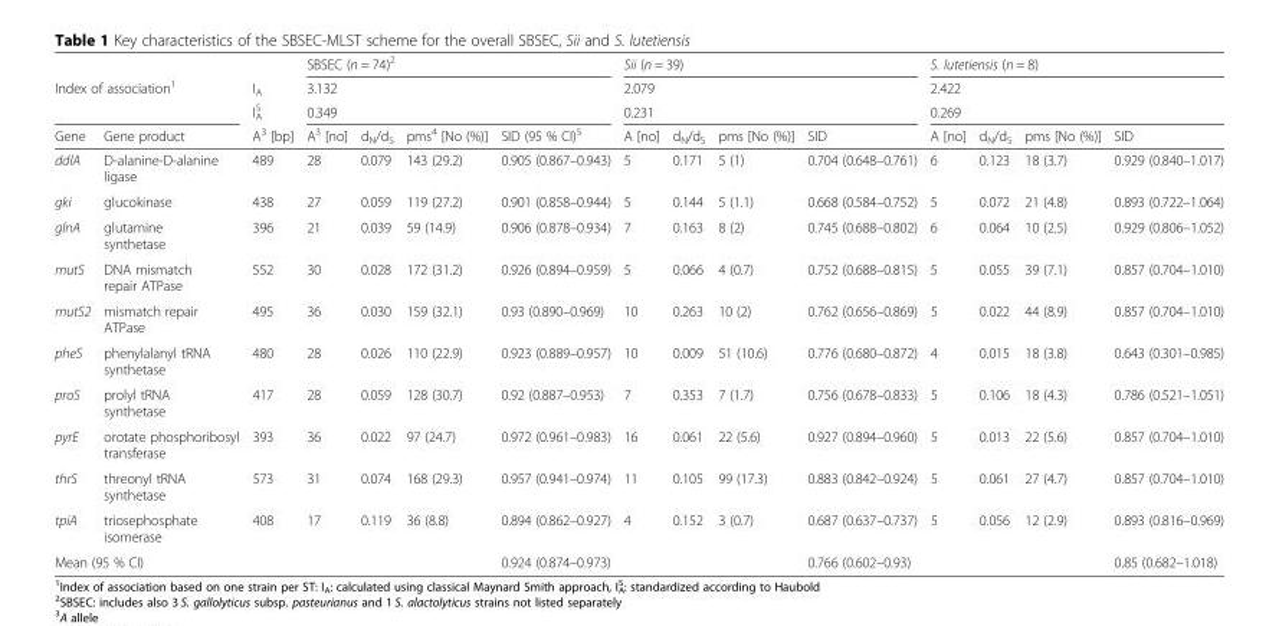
<table><thead><tr><td></td><td></td><td rowspan="4">I<sub>A</sub> I<sub>A</sub> <sup>S</sup> A<sup>3</sup> [bp]</td><td rowspan="3" colspan="4">SBSEC (n = 74)<sup>2</sup> 3.132 0.349</td><td rowspan="3" colspan="4">Sii (n = 39) 2.079 0.231</td><td rowspan="3" colspan="4">S. lutetiensis (n = 8) 2.422 0.269</td></tr><tr><td rowspan="2" colspan="2">Index of association<sup>1</sup></td></tr><tr></tr><tr><td>Gene</td><td>Gene product</td><td>A<sup>3</sup> [no]</td><td>d<sub>N</sub>/d<sub>S</sub></td><td>pms<sup>4</sup> [No (%)]</td><td>SID (95 % CI)<sup>5</sup></td><td>A [no]</td><td>d<sub>N</sub>/d<sub>S</sub></td><td>pms [No (%)]</td><td>SID</td><td>A [no]</td><td>d<sub>N</sub>/d<sub>S</sub></td><td>pms [No (%)]</td><td>SID</td></tr></thead><tbody><tr><td>ddlA</td><td>D-alanine-D-alanine ligase</td><td>489</td><td>28</td><td>0.079</td><td>143 (29.2)</td><td>0.905 (0.867–0.943)</td><td>5</td><td>0.171</td><td>5 (1)</td><td>0.704 (0.648–0.761)</td><td>6</td><td>0.123</td><td>18 (3.7)</td><td>0.929 (0.840–1.017)</td></tr><tr><td>gki</td><td>glucokinase</td><td>438</td><td>27</td><td>0.059</td><td>119 (27.2)</td><td>0.901 (0.858–0.944)</td><td>5</td><td>0.144</td><td>5 (1.1)</td><td>0.668 (0.584–0.752)</td><td>5</td><td>0.072</td><td>21 (4.8)</td><td>0.893 (0.722–1.064)</td></tr><tr><td>glnA</td><td>glutamine synthetase</td><td>396</td><td>21</td><td>0.039</td><td>59 (14.9)</td><td>0.906 (0.878–0.934)</td><td>7</td><td>0.163</td><td>8 (2)</td><td>0.745 (0.688–0.802)</td><td>6</td><td>0.064</td><td>10 (2.5)</td><td>0.929 (0.806–1.052)</td></tr><tr><td>mutS</td><td>DNA mismatch repair ATPase</td><td>552</td><td>30</td><td>0.028</td><td>172 (31.2)</td><td>0.926 (0.894–0.959)</td><td>5</td><td>0.066</td><td>4 (0.7)</td><td>0.752 (0.688–0.815)</td><td>5</td><td>0.055</td><td>39 (7.1)</td><td>0.857 (0.704–1.010)</td></tr><tr><td>mutS2</td><td>mismatch repair ATPase</td><td>495</td><td>36</td><td>0.030</td><td>159 (32.1)</td><td>0.93 (0.890–0.969)</td><td>10</td><td>0.263</td><td>10 (2)</td><td>0.762 (0.656–0.869)</td><td>5</td><td>0.022</td><td>44 (8.9)</td><td>0.857 (0.704–1.010)</td></tr><tr><td>pheS</td><td>phenylalanyl tRNA synthetase</td><td>480</td><td>28</td><td>0.026</td><td>110 (22.9)</td><td>0.923 (0.889–0.957)</td><td>10</td><td>0.009</td><td>51 (10.6)</td><td>0.776 (0.680–0.872)</td><td>4</td><td>0.015</td><td>18 (3.8)</td><td>0.643 (0.301–0.985)</td></tr><tr><td>proS</td><td>prolyl tRNA synthetase</td><td>417</td><td>28</td><td>0.059</td><td>128 (30.7)</td><td>0.92 (0.887–0.953)</td><td>7</td><td>0.353</td><td>7 (1.7)</td><td>0.756 (0.678–0.833)</td><td>5</td><td>0.106</td><td>18 (4.3)</td><td>0.786 (0.521–1.051)</td></tr><tr><td>pyrE</td><td>orotate phosphoribosyl transferase</td><td>393</td><td>36</td><td>0.022</td><td>97 (24.7)</td><td>0.972 (0.961–0.983)</td><td>16</td><td>0.061</td><td>22 (5.6)</td><td>0.927 (0.894–0.960)</td><td>5</td><td>0.013</td><td>22 (5.6)</td><td>0.857 (0.704–1.010)</td></tr><tr><td>thrS</td><td>threonyl tRNA synthetase</td><td>573</td><td>31</td><td>0.074</td><td>168 (29.3)</td><td>0.957 (0.941–0.974)</td><td>11</td><td>0.105</td><td>99 (17.3)</td><td>0.883 (0.842–0.924)</td><td>5</td><td>0.061</td><td>27 (4.7)</td><td>0.857 (0.704–1.010)</td></tr><tr><td>tpiA</td><td>triosephosphate isomerase</td><td>408</td><td>17</td><td>0.119</td><td>36 (8.8)</td><td>0.894 (0.862–0.927)</td><td>4</td><td>0.152</td><td>3 (0.7)</td><td>0.687 (0.637–0.737)</td><td>5</td><td>0.056</td><td>12 (2.9)</td><td>0.893 (0.816–0.969)</td></tr><tr><td colspan="2">Mean (95 % CI)</td><td></td><td></td><td></td><td></td><td>0.924 (0.874–0.973)</td><td></td><td></td><td></td><td>0.766 (0.602–0.93)</td><td></td><td></td><td></td><td>0.85 (0.682–1.018)</td></tr></tbody></table>